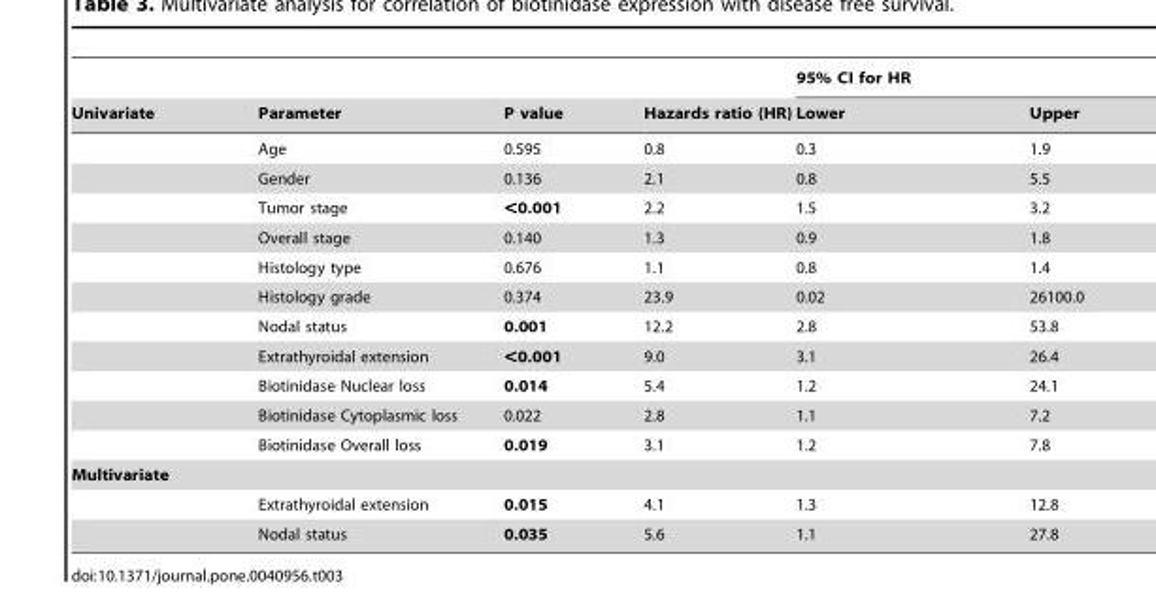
<table><thead><tr><td rowspan="2">Univariate</td><td rowspan="2">Parameter</td><td rowspan="2">P value</td><td rowspan="2">Hazards ratio (HR)</td><td colspan="2">95% CI for HR</td></tr><tr><td>Lower</td><td>Upper</td></tr></thead><tbody><tr><td></td><td>Age</td><td>0.595</td><td>0.8</td><td>0.3</td><td>1.9</td></tr><tr><td></td><td>Gender</td><td>0.136</td><td>2.1</td><td>0.8</td><td>5.5</td></tr><tr><td></td><td>Tumor stage</td><td>&lt;0.001</td><td>2.2</td><td>1.5</td><td>3.2</td></tr><tr><td></td><td>Overall stage</td><td>0.140</td><td>1.3</td><td>0.9</td><td>1.8</td></tr><tr><td></td><td>Histology type</td><td>0.676</td><td>1.1</td><td>0.8</td><td>1.4</td></tr><tr><td></td><td>Histology grade</td><td>0.374</td><td>23.9</td><td>0.02</td><td>26100.0</td></tr><tr><td></td><td>Nodal status</td><td>0.001</td><td>12.2</td><td>2.8</td><td>53.8</td></tr><tr><td></td><td>Extrathyroidal extension</td><td>&lt;0.001</td><td>9.0</td><td>3.1</td><td>26.4</td></tr><tr><td></td><td>Biotinidase Nuclear loss</td><td>0.014</td><td>5.4</td><td>1.2</td><td>24.1</td></tr><tr><td></td><td>Biotinidase Cytoplasmic loss</td><td>0.022</td><td>2.8</td><td>1.1</td><td>7.2</td></tr><tr><td></td><td>Biotinidase Overall loss</td><td>0.019</td><td>3.1</td><td>1.2</td><td>7.8</td></tr><tr><td colspan="6">Multivariate</td></tr><tr><td></td><td>Extrathyroidal extension</td><td>0.015</td><td>4.1</td><td>1.3</td><td>12.8</td></tr><tr><td></td><td>Nodal status</td><td>0.035</td><td>5.6</td><td>1.1</td><td>27.8</td></tr></tbody></table>